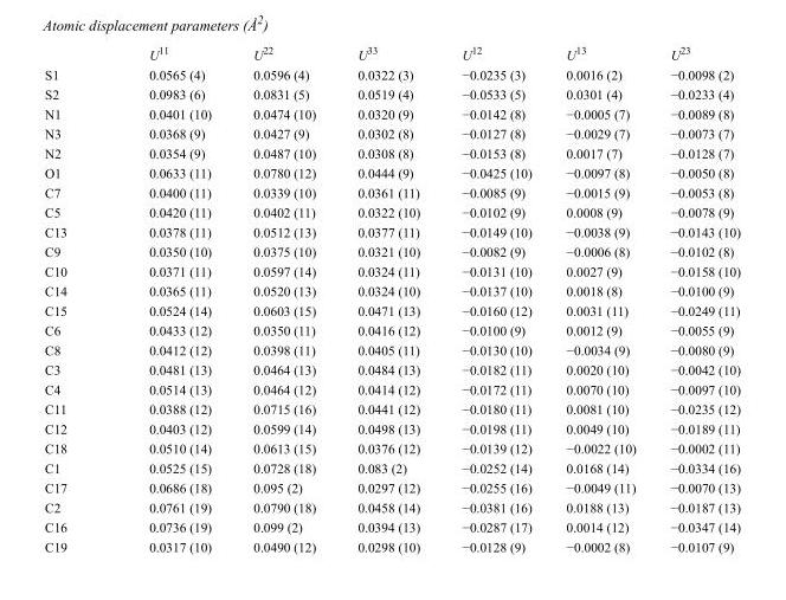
<table><thead><tr><td></td><td>U<sup>11</sup></td><td>U<sup>22</sup></td><td>U<sup>33</sup></td><td>U<sup>12</sup></td><td>U<sup>13</sup></td><td>U<sup>23</sup></td></tr></thead><tbody><tr><td>S1</td><td>0.0565 (4)</td><td>0.0596 (4)</td><td>0.0322 (3)</td><td>−0.0235 (3)</td><td>0.0016 (2)</td><td>−0.0098 (2)</td></tr><tr><td>S2</td><td>0.0983 (6)</td><td>0.0831 (5)</td><td>0.0519 (4)</td><td>−0.0533 (5)</td><td>0.0301 (4)</td><td>−0.0233 (4)</td></tr><tr><td>N1</td><td>0.0401 (10)</td><td>0.0474 (10)</td><td>0.0320 (9)</td><td>−0.0142 (8)</td><td>−0.0005 (7)</td><td>−0.0089 (8)</td></tr><tr><td>N3</td><td>0.0368 (9)</td><td>0.0427 (9)</td><td>0.0302 (8)</td><td>−0.0127 (8)</td><td>−0.0029 (7)</td><td>−0.0073 (7)</td></tr><tr><td>N2</td><td>0.0354 (9)</td><td>0.0487 (10)</td><td>0.0308 (8)</td><td>−0.0153 (8)</td><td>0.0017 (7)</td><td>−0.0128 (7)</td></tr><tr><td>O1</td><td>0.0633 (11)</td><td>0.0780 (12)</td><td>0.0444 (9)</td><td>−0.0425 (10)</td><td>−0.0097 (8)</td><td>−0.0050 (8)</td></tr><tr><td>C7</td><td>0.0400 (11)</td><td>0.0339 (10)</td><td>0.0361 (11)</td><td>−0.0085 (9)</td><td>−0.0015 (9)</td><td>−0.0053 (8)</td></tr><tr><td>C5</td><td>0.0420 (11)</td><td>0.0402 (11)</td><td>0.0322 (10)</td><td>−0.0102 (9)</td><td>0.0008 (9)</td><td>−0.0078 (9)</td></tr><tr><td>C13</td><td>0.0378 (11)</td><td>0.0512 (13)</td><td>0.0377 (11)</td><td>−0.0149 (10)</td><td>−0.0038 (9)</td><td>−0.0143 (10)</td></tr><tr><td>C9</td><td>0.0350 (10)</td><td>0.0375 (10)</td><td>0.0321 (10)</td><td>−0.0082 (9)</td><td>−0.0006 (8)</td><td>−0.0102 (8)</td></tr><tr><td>C10</td><td>0.0371 (11)</td><td>0.0597 (14)</td><td>0.0324 (11)</td><td>−0.0131 (10)</td><td>0.0027 (9)</td><td>−0.0158 (10)</td></tr><tr><td>C14</td><td>0.0365 (11)</td><td>0.0520 (13)</td><td>0.0324 (10)</td><td>−0.0137 (10)</td><td>0.0018 (8)</td><td>−0.0100 (9)</td></tr><tr><td>C15</td><td>0.0524 (14)</td><td>0.0603 (15)</td><td>0.0471 (13)</td><td>−0.0160 (12)</td><td>0.0031 (11)</td><td>−0.0249 (11)</td></tr><tr><td>C6</td><td>0.0433 (12)</td><td>0.0350 (11)</td><td>0.0416 (12)</td><td>−0.0100 (9)</td><td>0.0012 (9)</td><td>−0.0055 (9)</td></tr><tr><td>C8</td><td>0.0412 (12)</td><td>0.0398 (11)</td><td>0.0405 (11)</td><td>−0.0130 (10)</td><td>−0.0034 (9)</td><td>−0.0080 (9)</td></tr><tr><td>C3</td><td>0.0481 (13)</td><td>0.0464 (13)</td><td>0.0484 (13)</td><td>−0.0182 (11)</td><td>0.0020 (10)</td><td>−0.0042 (10)</td></tr><tr><td>C4</td><td>0.0514 (13)</td><td>0.0464 (12)</td><td>0.0414 (12)</td><td>−0.0172 (11)</td><td>0.0070 (10)</td><td>−0.0097 (10)</td></tr><tr><td>C11</td><td>0.0388 (12)</td><td>0.0715 (16)</td><td>0.0441 (12)</td><td>−0.0180 (11)</td><td>0.0081 (10)</td><td>−0.0235 (12)</td></tr><tr><td>C12</td><td>0.0403 (12)</td><td>0.0599 (14)</td><td>0.0498 (13)</td><td>−0.0198 (11)</td><td>0.0049 (10)</td><td>−0.0189 (11)</td></tr><tr><td>C18</td><td>0.0510 (14)</td><td>0.0613 (15)</td><td>0.0376 (12)</td><td>−0.0139 (12)</td><td>−0.0022 (10)</td><td>−0.0002 (11)</td></tr><tr><td>C1</td><td>0.0525 (15)</td><td>0.0728 (18)</td><td>0.083 (2)</td><td>−0.0252 (14)</td><td>0.0168 (14)</td><td>−0.0334 (16)</td></tr><tr><td>C17</td><td>0.0686 (18)</td><td>0.095 (2)</td><td>0.0297 (12)</td><td>−0.0255 (16)</td><td>−0.0049 (11)</td><td>−0.0070 (13)</td></tr><tr><td>C2</td><td>0.0761 (19)</td><td>0.0790 (18)</td><td>0.0458 (14)</td><td>−0.0381 (16)</td><td>0.0188 (13)</td><td>−0.0187 (13)</td></tr><tr><td>C16</td><td>0.0736 (19)</td><td>0.099 (2)</td><td>0.0394 (13)</td><td>−0.0287 (17)</td><td>0.0014 (12)</td><td>−0.0347 (14)</td></tr><tr><td>C19</td><td>0.0317 (10)</td><td>0.0490 (12)</td><td>0.0298 (10)</td><td>−0.0128 (9)</td><td>−0.0002 (8)</td><td>−0.0107 (9)</td></tr></tbody></table>